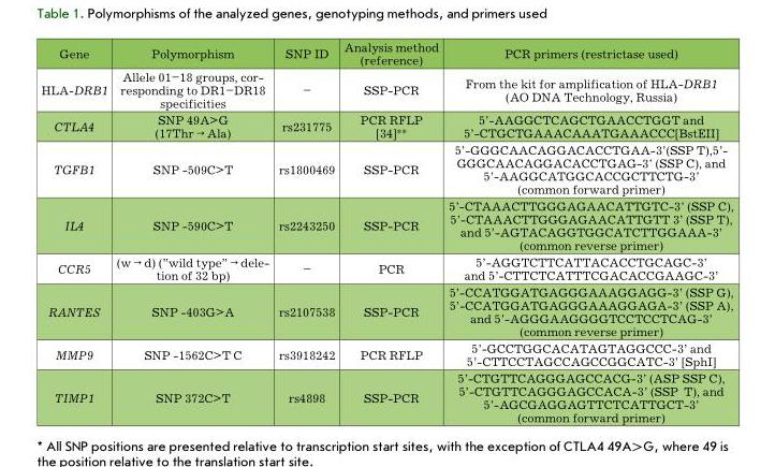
<table><thead><tr><td>Gene</td><td>Polymorphism</td><td>SNP ID</td><td>Analysis method (reference)</td><td>PCR primers (restrictase used)</td></tr></thead><tbody><tr><td>HLA-DRB1</td><td>Allele 01–18 groups, cor- responding to DR1–DR18 specificities</td><td>–</td><td>SSP-PCR</td><td>From the kit for amplification of HLA-DRB1 (AO DNA Technology, Russia)</td></tr><tr><td>CTLA4</td><td>SNP 49A&gt;G (17Thr → Ala)</td><td>rs231775</td><td>PCR RFLP [34]**</td><td>5’-AAGGCTCAGCTGAACCTGGT and 5’-CTGCTGAAACAAATGAAACCC[BstEII]</td></tr><tr><td>TGFB1</td><td>SNP -509C&gt;T</td><td>rs1800469</td><td>SSP-PCR</td><td>5’-GGGCAACAGGACACCTGAA-3’(SSP T),5’- GGGCAACAGGACACCTGAG-3’ (SSP C), and 5’-AAGGCATGGCACCGCTTCTG-3’ (common forward primer)</td></tr><tr><td>IL4</td><td>SNP -590C&gt;T</td><td>rs2243250</td><td>SSP-PCR</td><td>5’-CTAAACTTGGGAGAACATTGTC-3’ (SSP C), 5’-CTAAACTTGGGAGAACATTGTT 3’ (SSP T), and 5’-AGTACAGGTGGCATCTTGGAAA-3’ (common reverse primer)</td></tr><tr><td>CCR5</td><td>(w → d) (”wild type” → dele- tion of 32 bp)</td><td>–</td><td>PCR</td><td>5’-AGGTCTTCATTACACCTGCAGC-3’ and 5’-CTTCTCATTTCGACACCGAAGC-3’</td></tr><tr><td>RANTES</td><td>SNP -403G&gt;A</td><td>rs2107538</td><td>SSP-PCR</td><td>5’-CCATGGATGAGGGAAAGGAGG-3’ (SSP G), 5’-CCATGGATGAGGGAAAGGAGA-3’ (SSP A), and 5’-AGGGAAGGGGTCCTCCTCAG-3’ (common reverse primer)</td></tr><tr><td>MMP9</td><td>SNP -1562C&gt;T C</td><td>rs3918242</td><td>PCR RFLP</td><td>5’-GCCTGGCACATAGTAGGCCC-3’ and 5’-CTTCCTAGCCAGCCGGCATC-3’ [SphI]</td></tr><tr><td>TIMP1</td><td>SNP 372C&gt;T</td><td>rs4898</td><td>SSP-PCR</td><td>5’-CTGTTCAGGGAGCCACG-3’ (ASP SSP C), 5’-CTGTTCAGGGAGCCACA-3’ (SSP T), and 5’-AGCGAGGAGTTCTCATTGCT-3’ (common forward primer)</td></tr></tbody></table>